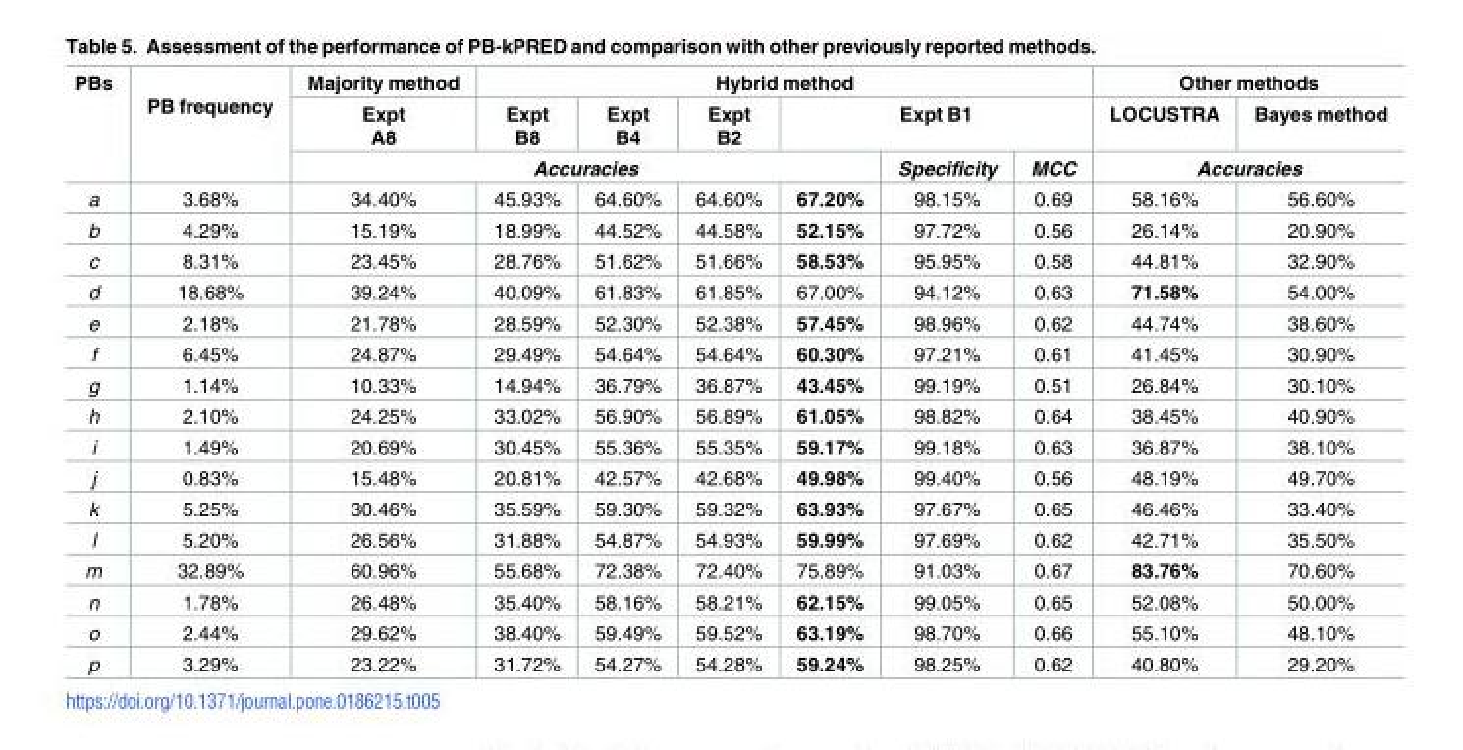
<table><thead><tr><td rowspan="4">PBs a</td><td rowspan="4">PB frequency 3.68%</td><td rowspan="2">Majority method Expt A8</td><td colspan="6">Hybrid method</td><td colspan="2">Other methods</td></tr><tr><td>Expt B8</td><td>Expt B4</td><td>Expt B2</td><td colspan="3">Expt B1</td><td>LOCUSTRA</td><td>Bayes method</td></tr><tr><td colspan="5">Accuracies</td><td rowspan="2">Specificity 98.15%</td><td rowspan="2">MCC 0.69</td><td colspan="2">Accuracies</td></tr><tr><td>34.40%</td><td>45.93%</td><td>64.60%</td><td>64.60%</td><td>67.20%</td><td>58.16%</td><td>56.60%</td></tr></thead><tbody><tr><td>b</td><td>4.29%</td><td>15.19%</td><td>18.99%</td><td>44.52%</td><td>44.58%</td><td>52.15%</td><td>97.72%</td><td>0.56</td><td>26.14%</td><td>20.90%</td></tr><tr><td>c</td><td>8.31%</td><td>23.45%</td><td>28.76%</td><td>51.62%</td><td>51.66%</td><td>58.53%</td><td>95.95%</td><td>0.58</td><td>44.81%</td><td>32.90%</td></tr><tr><td>d</td><td>18.68%</td><td>39.24%</td><td>40.09%</td><td>61.83%</td><td>61.85%</td><td>67.00%</td><td>94.12%</td><td>0.63</td><td>71.58%</td><td>54.00%</td></tr><tr><td>e</td><td>2.18%</td><td>21.78%</td><td>28.59%</td><td>52.30%</td><td>52.38%</td><td>57.45%</td><td>98.96%</td><td>0.62</td><td>44.74%</td><td>38.60%</td></tr><tr><td>f</td><td>6.45%</td><td>24.87%</td><td>29.49%</td><td>54.64%</td><td>54.64%</td><td>60.30%</td><td>97.21%</td><td>0.61</td><td>41.45%</td><td>30.90%</td></tr><tr><td>g</td><td>1.14%</td><td>10.33%</td><td>14.94%</td><td>36.79%</td><td>36.87%</td><td>43.45%</td><td>99.19%</td><td>0.51</td><td>26.84%</td><td>30.10%</td></tr><tr><td>h</td><td>2.10%</td><td>24.25%</td><td>33.02%</td><td>56.90%</td><td>56.89%</td><td>61.05%</td><td>98.82%</td><td>0.64</td><td>38.45%</td><td>40.90%</td></tr><tr><td>i</td><td>1.49%</td><td>20.69%</td><td>30.45%</td><td>55.36%</td><td>55.35%</td><td>59.17%</td><td>99.18%</td><td>0.63</td><td>36.87%</td><td>38.10%</td></tr><tr><td>j</td><td>0.83%</td><td>15.48%</td><td>20.81%</td><td>42.57%</td><td>42.68%</td><td>49.98%</td><td>99.40%</td><td>0.56</td><td>48.19%</td><td>49.70%</td></tr><tr><td>k</td><td>5.25%</td><td>30.46%</td><td>35.59%</td><td>59.30%</td><td>59.32%</td><td>63.93%</td><td>97.67%</td><td>0.65</td><td>46.46%</td><td>33.40%</td></tr><tr><td>l</td><td>5.20%</td><td>26.56%</td><td>31.88%</td><td>54.87%</td><td>54.93%</td><td>59.99%</td><td>97.69%</td><td>0.62</td><td>42.71%</td><td>35.50%</td></tr><tr><td>m</td><td>32.89%</td><td>60.96%</td><td>55.68%</td><td>72.38%</td><td>72.40%</td><td>75.89%</td><td>91.03%</td><td>0.67</td><td>83.76%</td><td>70.60%</td></tr><tr><td>n</td><td>1.78%</td><td>26.48%</td><td>35.40%</td><td>58.16%</td><td>58.21%</td><td>62.15%</td><td>99.05%</td><td>0.65</td><td>52.08%</td><td>50.00%</td></tr><tr><td>o</td><td>2.44%</td><td>29.62%</td><td>38.40%</td><td>59.49%</td><td>59.52%</td><td>63.19%</td><td>98.70%</td><td>0.66</td><td>55.10%</td><td>48.10%</td></tr><tr><td>p</td><td>3.29%</td><td>23.22%</td><td>31.72%</td><td>54.27%</td><td>54.28%</td><td>59.24%</td><td>98.25%</td><td>0.62</td><td>40.80%</td><td>29.20%</td></tr></tbody></table>